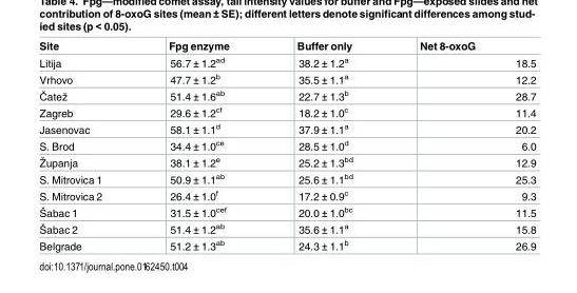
<table><thead><tr><td>Site</td><td>Fpg enzyme</td><td>Buffer only</td><td>Net 8-oxoG</td></tr></thead><tbody><tr><td>Litija</td><td>56.7 ± 1.2<sup>ad</sup></td><td>38.2 ± 1.2<sup>a</sup></td><td>18.5</td></tr><tr><td>Vrhovo</td><td>47.7 ± 1.2<sup>b</sup></td><td>35.5 ± 1.1<sup>a</sup></td><td>12.2</td></tr><tr><td>Čatež</td><td>51.4 ± 1.6<sup>ab</sup></td><td>22.7 ± 1.3<sup>b</sup></td><td>28.7</td></tr><tr><td>Zagreb</td><td>29.6 ± 1.2<sup>cf</sup></td><td>18.2 ± 1.0<sup>c</sup></td><td>11.4</td></tr><tr><td>Jasenovac</td><td>58.1 ± 1.1<sup>d</sup></td><td>37.9 ± 1.1<sup>a</sup></td><td>20.2</td></tr><tr><td>S. Brod</td><td>34.4 ± 1.0<sup>ce</sup></td><td>28.5 ± 1.0<sup>d</sup></td><td>6.0</td></tr><tr><td>Županja</td><td>38.1 ± 1.2<sup>e</sup></td><td>25.2 ± 1.3<sup>bd</sup></td><td>12.9</td></tr><tr><td>S. Mitrovica 1</td><td>50.9 ± 1.1<sup>ab</sup></td><td>25.6 ± 1.1<sup>bd</sup></td><td>25.3</td></tr><tr><td>S. Mitrovica 2</td><td>26.4 ± 1.0<sup>f</sup></td><td>17.2 ± 0.9<sup>c</sup></td><td>9.3</td></tr><tr><td>Šabac 1</td><td>31.5 ± 1.0<sup>cef</sup></td><td>20.0 ± 1.0<sup>bc</sup></td><td>11.5</td></tr><tr><td>Šabac 2</td><td>51.4 ± 1.2<sup>ab</sup></td><td>35.6 ± 1.1<sup>a</sup></td><td>15.8</td></tr><tr><td>Belgrade</td><td>51.2 ± 1.3<sup>ab</sup></td><td>24.3 ± 1.1<sup>b</sup></td><td>26.9</td></tr></tbody></table>